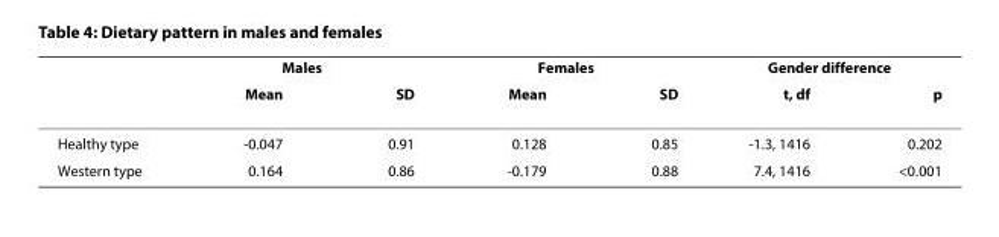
<table><thead><tr><td rowspan="2"></td><td colspan="2">Males</td><td colspan="2">Females</td><td colspan="2">Gender difference</td></tr><tr><td>Mean</td><td>SD</td><td>Mean</td><td>SD</td><td>t, df</td><td>p</td></tr></thead><tbody><tr><td>Healthy type</td><td>-0.047</td><td>0.91</td><td>0.128</td><td>0.85</td><td>-1.3, 1416</td><td>0.202</td></tr><tr><td>Western type</td><td>0.164</td><td>0.86</td><td>-0.179</td><td>0.88</td><td>7.4, 1416</td><td>&lt;0.001</td></tr></tbody></table>